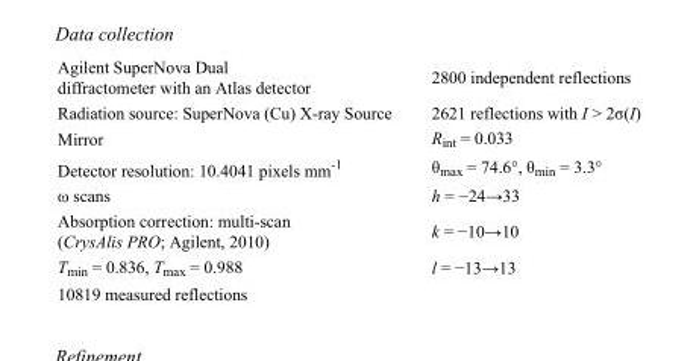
<table><tbody><tr><td>Agilent SuperNova Dual diffractometer with an Atlas detector</td><td>2800 independent reflections</td></tr><tr><td>Radiation source: SuperNova (Cu) X-ray Source</td><td>2621 reflections with I &gt; 2σ(I)</td></tr><tr><td>Mirror</td><td>R<sub>int</sub> = 0.033</td></tr><tr><td>Detector resolution: 10.4041 pixels mm<sup>-1</sup></td><td>θ<sub>max</sub> = 74.6°, θ<sub>min</sub> = 3.3°</td></tr><tr><td>ω scans</td><td>h = −24→33</td></tr><tr><td>Absorption correction: multi-scan (CrysAlis PRO; Agilent, 2010)</td><td>k = −10→10</td></tr><tr><td>T<sub>min</sub> = 0.836, T<sub>max</sub> = 0.988</td><td>l = −13→13</td></tr><tr><td>10819 measured reflections</td><td></td></tr></tbody></table>